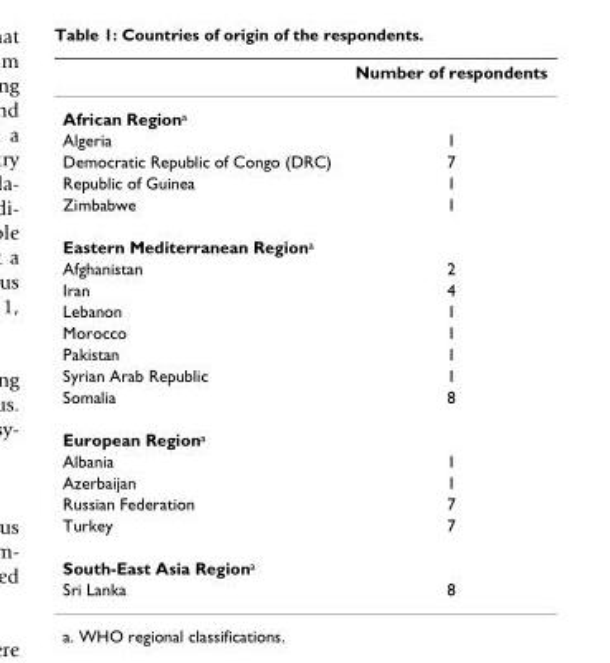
<table><thead><tr><td></td><td>Number of respondents</td></tr></thead><tbody><tr><td colspan="2">African Region<sup>a</sup></td></tr><tr><td>Algeria</td><td>1</td></tr><tr><td>Democratic Republic of Congo (DRC)</td><td>7</td></tr><tr><td>Republic of Guinea</td><td>1</td></tr><tr><td>Zimbabwe</td><td>1</td></tr><tr><td colspan="2">Eastern Mediterranean Region<sup>a</sup></td></tr><tr><td>Afghanistan</td><td>2</td></tr><tr><td>Iran</td><td>4</td></tr><tr><td>Lebanon</td><td>1</td></tr><tr><td>Morocco</td><td>1</td></tr><tr><td>Pakistan</td><td>1</td></tr><tr><td>Syrian Arab Republic</td><td>1</td></tr><tr><td>Somalia</td><td>8</td></tr><tr><td colspan="2">European Region<sup>a</sup></td></tr><tr><td>Albania</td><td>1</td></tr><tr><td>Azerbaijan</td><td>1</td></tr><tr><td>Russian Federation</td><td>7</td></tr><tr><td>Turkey</td><td>7</td></tr><tr><td colspan="2">South-East Asia Region<sup>a</sup></td></tr><tr><td>Sri Lanka</td><td>8</td></tr></tbody></table>